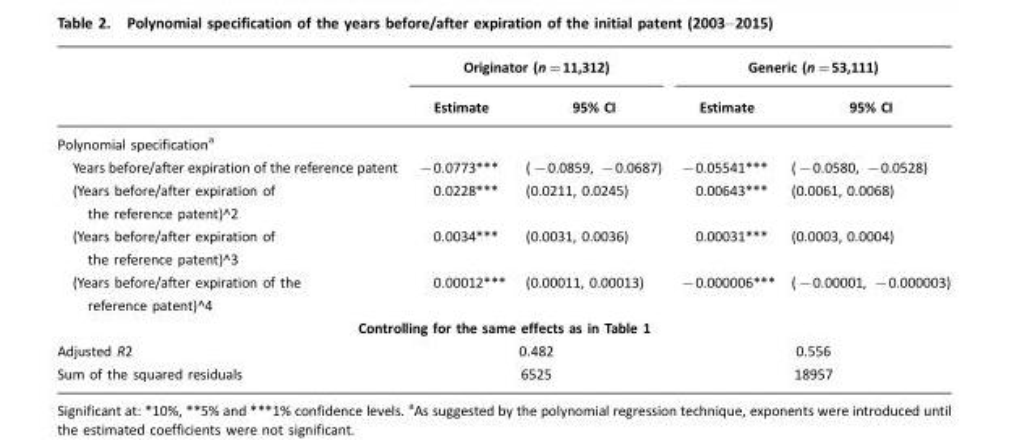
<table><thead><tr><td rowspan="2"></td><td colspan="2">Originator (n=11,312)</td><td colspan="2">Generic (n=53,111)</td></tr><tr><td>Estimate</td><td>95% CI</td><td>Estimate</td><td>95% CI</td></tr></thead><tbody><tr><td colspan="5">Polynomial specification<sup>a</sup></td></tr><tr><td>Years before/after expiration of the reference patent</td><td>−0.0773***</td><td>(−0.0859, −0.0687)</td><td>−0.05541***</td><td>(−0.0580, −0.0528)</td></tr><tr><td>(Years before/after expiration of the reference patent)^2</td><td>0.0228***</td><td>(0.0211, 0.0245)</td><td>0.00643***</td><td>(0.0061, 0.0068)</td></tr><tr><td>(Years before/after expiration of the reference patent)^3</td><td>0.0034***</td><td>(0.0031, 0.0036)</td><td>0.00031***</td><td>(0.0003, 0.0004)</td></tr><tr><td>(Years before/after expiration of the reference patent)^4</td><td>0.00012***</td><td>(0.00011, 0.00013)</td><td>−0.000006***</td><td>(−0.00001, −0.000003)</td></tr><tr><td colspan="5">Controlling for the same effects as in Table 1</td></tr><tr><td>Adjusted R2</td><td colspan="2">0.482</td><td colspan="2">0.556</td></tr><tr><td>Sum of the squared residuals</td><td colspan="2">6525</td><td colspan="2">18957</td></tr></tbody></table>